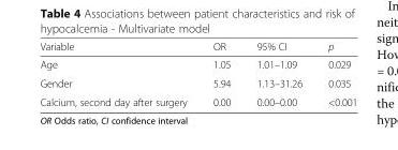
<table><thead><tr><td>Variable</td><td>OR</td><td>95% CI</td><td>p</td></tr></thead><tbody><tr><td>Age</td><td>1.05</td><td>1.01–1.09</td><td>0.029</td></tr><tr><td>Gender</td><td>5.94</td><td>1.13–31.26</td><td>0.035</td></tr><tr><td>Calcium, second day after surgery</td><td>0.00</td><td>0.00–0.00</td><td>&lt;0.001</td></tr></tbody></table>